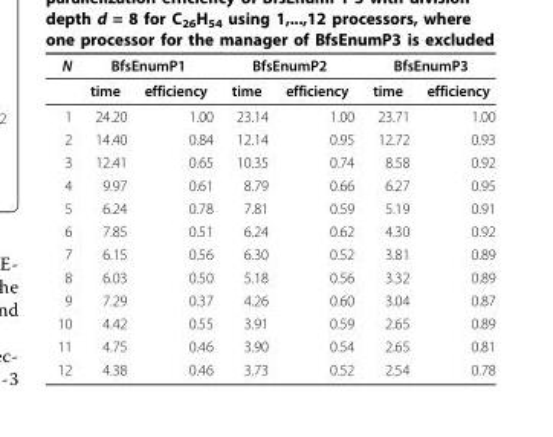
<table><thead><tr><td rowspan="2">N</td><td colspan="2">BfsEnumP1</td><td colspan="2">BfsEnumP2</td><td colspan="2">BfsEnumP3</td></tr><tr><td>time</td><td>efficiency</td><td>time</td><td>efficiency</td><td>time</td><td>efficiency</td></tr></thead><tbody><tr><td>1</td><td>24.20</td><td>1.00</td><td>23.14</td><td>1.00</td><td>23.71</td><td>1.00</td></tr><tr><td>2</td><td>14.40</td><td>0.84</td><td>12.14</td><td>0.95</td><td>12.72</td><td>0.93</td></tr><tr><td>3</td><td>12.41</td><td>0.65</td><td>10.35</td><td>0.74</td><td>8.58</td><td>0.92</td></tr><tr><td>4</td><td>9.97</td><td>0.61</td><td>8.79</td><td>0.66</td><td>6.27</td><td>0.95</td></tr><tr><td>5</td><td>6.24</td><td>0.78</td><td>7.81</td><td>0.59</td><td>5.19</td><td>0.91</td></tr><tr><td>6</td><td>7.85</td><td>0.51</td><td>6.24</td><td>0.62</td><td>4.30</td><td>0.92</td></tr><tr><td>7</td><td>6.15</td><td>0.56</td><td>6.30</td><td>0.52</td><td>3.81</td><td>0.89</td></tr><tr><td>8</td><td>6.03</td><td>0.50</td><td>5.18</td><td>0.56</td><td>3.32</td><td>0.89</td></tr><tr><td>9</td><td>7.29</td><td>0.37</td><td>4.26</td><td>0.60</td><td>3.04</td><td>0.87</td></tr><tr><td>10</td><td>4.42</td><td>0.55</td><td>3.91</td><td>0.59</td><td>2.65</td><td>0.89</td></tr><tr><td>11</td><td>4.75</td><td>0.46</td><td>3.90</td><td>0.54</td><td>2.65</td><td>0.81</td></tr><tr><td>12</td><td>4.38</td><td>0.46</td><td>3.73</td><td>0.52</td><td>2.54</td><td>0.78</td></tr></tbody></table>